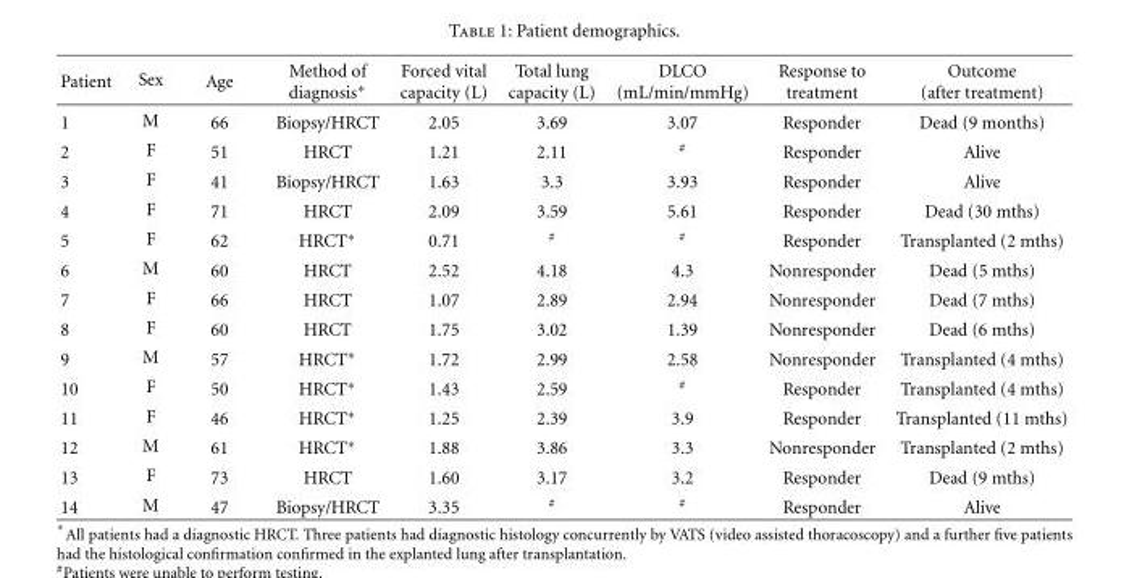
<table><thead><tr><td>Patient</td><td>Sex</td><td>Age</td><td>Method of diagnosis∗</td><td>Forced vital capacity (L)</td><td>Total lung capacity (L)</td><td>DLCO (mL/min/mmHg)</td><td>Response to treatment</td><td>Outcome (after treatment)</td></tr></thead><tbody><tr><td>1</td><td>M</td><td>66</td><td>Biopsy/HRCT</td><td>2.05</td><td>3.69</td><td>3.07</td><td>Responder</td><td>Dead (9 months)</td></tr><tr><td>2</td><td>F</td><td>51</td><td>HRCT</td><td>1.21</td><td>2.11</td><td><sup>#</sup></td><td>Responder</td><td>Alive</td></tr><tr><td>3</td><td>F</td><td>41</td><td>Biopsy/HRCT</td><td>1.63</td><td>3.3</td><td>3.93</td><td>Responder</td><td>Alive</td></tr><tr><td>4</td><td>F</td><td>71</td><td>HRCT</td><td>2.09</td><td>3.59</td><td>5.61</td><td>Responder</td><td>Dead (30 mths)</td></tr><tr><td>5</td><td>F</td><td>62</td><td>HRCT∗</td><td>0.71</td><td><sup>#</sup></td><td><sup>#</sup></td><td>Responder</td><td>Transplanted (2 mths)</td></tr><tr><td>6</td><td>M</td><td>60</td><td>HRCT</td><td>2.52</td><td>4.18</td><td>4.3</td><td>Nonresponder</td><td>Dead (5 mths)</td></tr><tr><td>7</td><td>F</td><td>66</td><td>HRCT</td><td>1.07</td><td>2.89</td><td>2.94</td><td>Nonresponder</td><td>Dead (7 mths)</td></tr><tr><td>8</td><td>F</td><td>60</td><td>HRCT</td><td>1.75</td><td>3.02</td><td>1.39</td><td>Nonresponder</td><td>Dead (6 mths)</td></tr><tr><td>9</td><td>M</td><td>57</td><td>HRCT∗</td><td>1.72</td><td>2.99</td><td>2.58</td><td>Nonresponder</td><td>Transplanted (4 mths)</td></tr><tr><td>10</td><td>F</td><td>50</td><td>HRCT∗</td><td>1.43</td><td>2.59</td><td><sup>#</sup></td><td>Responder</td><td>Transplanted (4 mths)</td></tr><tr><td>11</td><td>F</td><td>46</td><td>HRCT∗</td><td>1.25</td><td>2.39</td><td>3.9</td><td>Responder</td><td>Transplanted (11 mths)</td></tr><tr><td>12</td><td>M</td><td>61</td><td>HRCT∗</td><td>1.88</td><td>3.86</td><td>3.3</td><td>Nonresponder</td><td>Transplanted (2 mths)</td></tr><tr><td>13</td><td>F</td><td>73</td><td>HRCT</td><td>1.60</td><td>3.17</td><td>3.2</td><td>Responder</td><td>Dead (9 mths)</td></tr><tr><td>14</td><td>M</td><td>47</td><td>Biopsy/HRCT</td><td>3.35</td><td><sup>#</sup></td><td><sup>#</sup></td><td>Responder</td><td>Alive</td></tr></tbody></table>